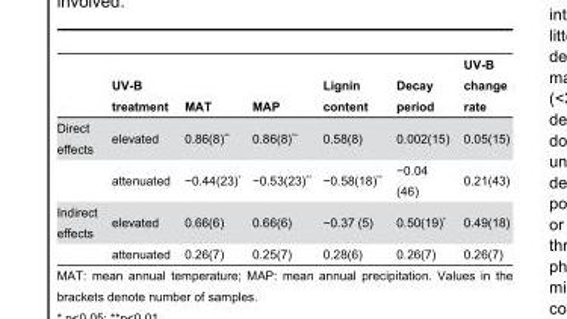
<table><thead><tr><td></td><td>UV-B treatment</td><td>MAT</td><td>MAP</td><td>Lignin content</td><td>Decay period</td><td>UV-B change rate</td></tr></thead><tbody><tr><td rowspan="2">Direct effects</td><td>elevated</td><td>0.86(8)**</td><td>0.86(8)**</td><td>0.58(8)</td><td>0.002(15)</td><td>0.05(15)</td></tr><tr><td>attenuated</td><td>−0.44(23)*</td><td>−0.53(23)**</td><td>−0.58(18)**</td><td>−0.04 (46)</td><td>0.21(43)</td></tr><tr><td rowspan="2">Indirect effects</td><td>elevated</td><td>0.66(6)</td><td>0.66(6)</td><td>−0.37 (5)</td><td>0.50(19)*</td><td>0.49(18)</td></tr><tr><td>attenuated</td><td>0.26(7)</td><td>0.25(7)</td><td>0.28(6)</td><td>0.26(7)</td><td>0.26(7)</td></tr></tbody></table>